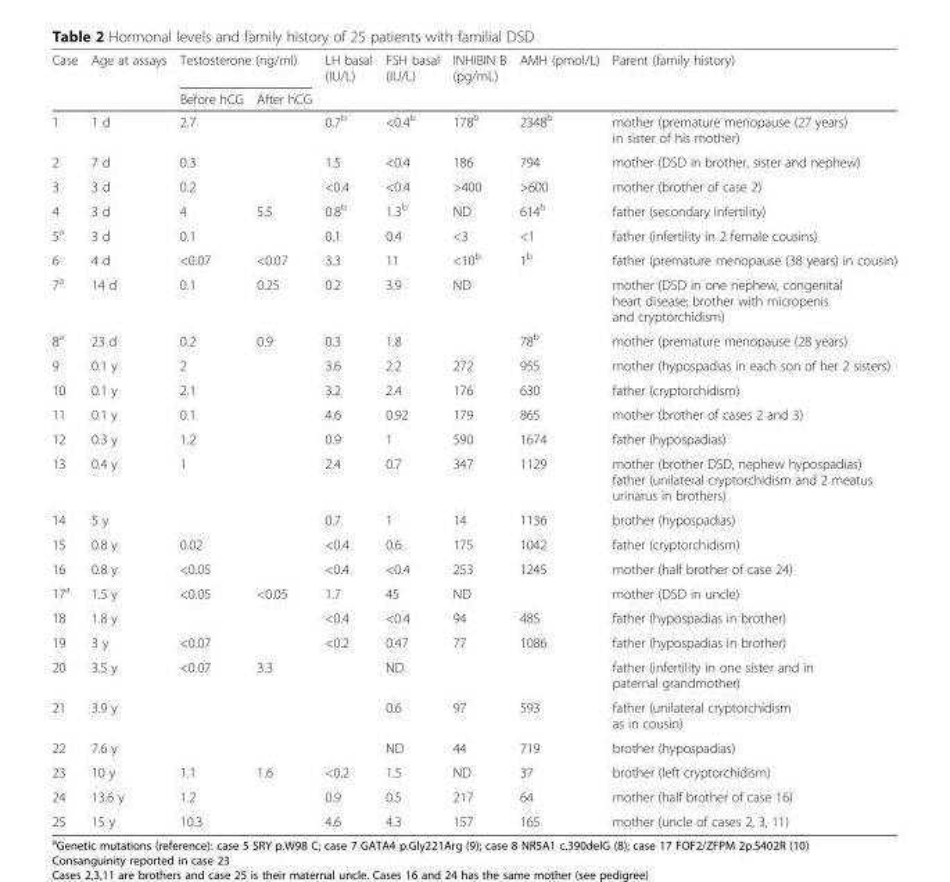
<table><thead><tr><td rowspan="2">Case</td><td rowspan="2">Age at assays</td><td colspan="2">Testosterone (ng/ml)</td><td rowspan="2">LH basal (IU/L)</td><td rowspan="2">FSH basal (IU/L)</td><td rowspan="2">INHIBIN B (pg/mL)</td><td rowspan="2">AMH (pmol/L)</td><td rowspan="2">Parent (family history)</td></tr><tr><td>Before hCG</td><td>After hCG</td></tr></thead><tbody><tr><td>1</td><td>1 d</td><td>2.7</td><td></td><td>0.7<sup>b</sup></td><td>&lt;0.4<sup>b</sup></td><td>178<sup>b</sup></td><td>2348<sup>b</sup></td><td>mother (premature menopause (27 years) in sister of his mother)</td></tr><tr><td>2</td><td>7 d</td><td>0.3</td><td></td><td>1.5</td><td>&lt;0.4</td><td>186</td><td>794</td><td>mother (DSD in brother, sister and nephew)</td></tr><tr><td>3</td><td>3 d</td><td>0.2</td><td></td><td>&lt;0.4</td><td>&lt;0.4</td><td>&gt;400</td><td>&gt;600</td><td>mother (brother of case 2)</td></tr><tr><td>4</td><td>3 d</td><td>4</td><td>5.5</td><td>0.8<sup>b</sup></td><td>1.3<sup>b</sup></td><td>ND</td><td>614<sup>b</sup></td><td>father (secondary infertility)</td></tr><tr><td>5<sup>a</sup></td><td>3 d</td><td>0.1</td><td></td><td>0.1</td><td>0.4</td><td>&lt;3</td><td>&lt;1</td><td>father (infertility in 2 female cousins)</td></tr><tr><td>6</td><td>4 d</td><td>&lt;0.07</td><td>&lt;0.07</td><td>3.3</td><td>11</td><td>&lt;10<sup>b</sup></td><td>1<sup>b</sup></td><td>father (premature menopause (38 years) in cousin)</td></tr><tr><td>7<sup>a</sup></td><td>14 d</td><td>0.1</td><td>0.25</td><td>0.2</td><td>3.9</td><td>ND</td><td></td><td>mother (DSD in one nephew, congenital heart disease; brother with micropenis and cryptorchidism)</td></tr><tr><td>8<sup>a</sup></td><td>23 d</td><td>0.2</td><td>0.9</td><td>0.3</td><td>1.8</td><td></td><td>78<sup>b</sup></td><td>mother (premature menopause (28 years)</td></tr><tr><td>9</td><td>0.1 y</td><td>2</td><td></td><td>3.6</td><td>2.2</td><td>272</td><td>955</td><td>mother (hypospadias in each son of her 2 sisters)</td></tr><tr><td>10</td><td>0.1 y</td><td>2.1</td><td></td><td>3.2</td><td>2.4</td><td>176</td><td>630</td><td>father (cryptorchidism)</td></tr><tr><td>11</td><td>0.1 y</td><td>0.1</td><td></td><td>4.6</td><td>0.92</td><td>179</td><td>865</td><td>mother (brother of cases 2 and 3)</td></tr><tr><td>12</td><td>0.3 y</td><td>1.2</td><td></td><td>0.9</td><td>1</td><td>590</td><td>1674</td><td>father (hypospadias)</td></tr><tr><td>13</td><td>0.4 y</td><td>1</td><td></td><td>2.4</td><td>0.7</td><td>347</td><td>1129</td><td>mother (brother DSD, nephew hypospadias) father (unilateral cryptorchidism and 2 meatus urinarus in brothers)</td></tr><tr><td>14</td><td>5 y</td><td></td><td></td><td>0.7</td><td>1</td><td>14</td><td>1136</td><td>brother (hypospadias)</td></tr><tr><td>15</td><td>0.8 y</td><td>0.02</td><td></td><td>&lt;0.4</td><td>0.6</td><td>175</td><td>1042</td><td>father (cryptorchidism)</td></tr><tr><td>16</td><td>0.8 y</td><td>&lt;0.05</td><td></td><td>&lt;0.4</td><td>&lt;0.4</td><td>253</td><td>1245</td><td>mother (half brother of case 24)</td></tr><tr><td>17<sup>a</sup></td><td>1.5 y</td><td>&lt;0.05</td><td>&lt;0.05</td><td>1.7</td><td>45</td><td>ND</td><td></td><td>mother (DSD in uncle)</td></tr><tr><td>18</td><td>1.8 y</td><td></td><td></td><td>&lt;0.4</td><td>&lt;0.4</td><td>94</td><td>485</td><td>father (hypospadias in brother)</td></tr><tr><td>19</td><td>3 y</td><td>&lt;0.07</td><td></td><td>&lt;0.2</td><td>0.47</td><td>77</td><td>1086</td><td>father (hypospadias in brother)</td></tr><tr><td>20</td><td>3.5 y</td><td>&lt;0.07</td><td>3.3</td><td></td><td>ND</td><td></td><td></td><td>father (infertility in one sister and in paternal grandmother)</td></tr><tr><td>21</td><td>3.9 y</td><td></td><td></td><td></td><td>0.6</td><td>97</td><td>593</td><td>father (unilateral cryptorchidism as in cousin)</td></tr><tr><td>22</td><td>7.6 y</td><td></td><td></td><td></td><td>ND</td><td>44</td><td>719</td><td>brother (hypospadias)</td></tr><tr><td>23</td><td>10 y</td><td>1.1</td><td>1.6</td><td>&lt;0.2</td><td>1.5</td><td>ND</td><td>37</td><td>brother (left cryptorchidism)</td></tr><tr><td>24</td><td>13.6 y</td><td>1.2</td><td></td><td>0.9</td><td>0.5</td><td>217</td><td>64</td><td>mother (half brother of case 16)</td></tr><tr><td>25</td><td>15 y</td><td>10.3</td><td></td><td>4.6</td><td>4.3</td><td>157</td><td>165</td><td>mother (uncle of cases 2, 3, 11)</td></tr></tbody></table>